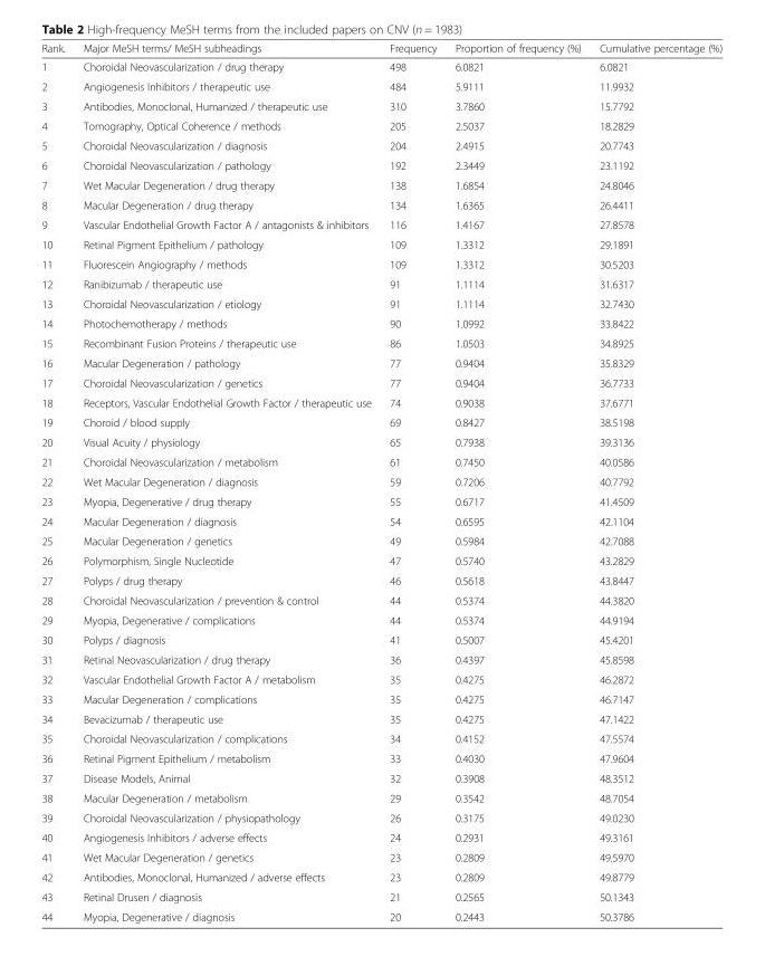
<table><thead><tr><td>Rank.</td><td>Major MeSH terms/ MeSH subheadings</td><td>Frequency</td><td>Proportion of frequency (%)</td><td>Cumulative percentage (%)</td></tr></thead><tbody><tr><td>1</td><td>Choroidal Neovascularization / drug therapy</td><td>498</td><td>6.0821</td><td>6.0821</td></tr><tr><td>2</td><td>Angiogenesis Inhibitors / therapeutic use</td><td>484</td><td>5.9111</td><td>11.9932</td></tr><tr><td>3</td><td>Antibodies, Monoclonal, Humanized / therapeutic use</td><td>310</td><td>3.7860</td><td>15.7792</td></tr><tr><td>4</td><td>Tomography, Optical Coherence / methods</td><td>205</td><td>2.5037</td><td>18.2829</td></tr><tr><td>5</td><td>Choroidal Neovascularization / diagnosis</td><td>204</td><td>2.4915</td><td>20.7743</td></tr><tr><td>6</td><td>Choroidal Neovascularization / pathology</td><td>192</td><td>2.3449</td><td>23.1192</td></tr><tr><td>7</td><td>Wet Macular Degeneration / drug therapy</td><td>138</td><td>1.6854</td><td>24.8046</td></tr><tr><td>8</td><td>Macular Degeneration / drug therapy</td><td>134</td><td>1.6365</td><td>26.4411</td></tr><tr><td>9</td><td>Vascular Endothelial Growth Factor A / antagonists &amp; inhibitors</td><td>116</td><td>1.4167</td><td>27.8578</td></tr><tr><td>10</td><td>Retinal Pigment Epithelium / pathology</td><td>109</td><td>1.3312</td><td>29.1891</td></tr><tr><td>11</td><td>Fluorescein Angiography / methods</td><td>109</td><td>1.3312</td><td>30.5203</td></tr><tr><td>12</td><td>Ranibizumab / therapeutic use</td><td>91</td><td>1.1114</td><td>31.6317</td></tr><tr><td>13</td><td>Choroidal Neovascularization / etiology</td><td>91</td><td>1.1114</td><td>32.7430</td></tr><tr><td>14</td><td>Photochemotherapy / methods</td><td>90</td><td>1.0992</td><td>33.8422</td></tr><tr><td>15</td><td>Recombinant Fusion Proteins / therapeutic use</td><td>86</td><td>1.0503</td><td>34.8925</td></tr><tr><td>16</td><td>Macular Degeneration / pathology</td><td>77</td><td>0.9404</td><td>35.8329</td></tr><tr><td>17</td><td>Choroidal Neovascularization / genetics</td><td>77</td><td>0.9404</td><td>36.7733</td></tr><tr><td>18</td><td>Receptors, Vascular Endothelial Growth Factor / therapeutic use</td><td>74</td><td>0.9038</td><td>37.6771</td></tr><tr><td>19</td><td>Choroid / blood supply</td><td>69</td><td>0.8427</td><td>38.5198</td></tr><tr><td>20</td><td>Visual Acuity / physiology</td><td>65</td><td>0.7938</td><td>39.3136</td></tr><tr><td>21</td><td>Choroidal Neovascularization / metabolism</td><td>61</td><td>0.7450</td><td>40.0586</td></tr><tr><td>22</td><td>Wet Macular Degeneration / diagnosis</td><td>59</td><td>0.7206</td><td>40.7792</td></tr><tr><td>23</td><td>Myopia, Degenerative / drug therapy</td><td>55</td><td>0.6717</td><td>41.4509</td></tr><tr><td>24</td><td>Macular Degeneration / diagnosis</td><td>54</td><td>0.6595</td><td>42.1104</td></tr><tr><td>25</td><td>Macular Degeneration / genetics</td><td>49</td><td>0.5984</td><td>42.7088</td></tr><tr><td>26</td><td>Polymorphism, Single Nucleotide</td><td>47</td><td>0.5740</td><td>43.2829</td></tr><tr><td>27</td><td>Polyps / drug therapy</td><td>46</td><td>0.5618</td><td>43.8447</td></tr><tr><td>28</td><td>Choroidal Neovascularization / prevention &amp; control</td><td>44</td><td>0.5374</td><td>44.3820</td></tr><tr><td>29</td><td>Myopia, Degenerative / complications</td><td>44</td><td>0.5374</td><td>44.9194</td></tr><tr><td>30</td><td>Polyps / diagnosis</td><td>41</td><td>0.5007</td><td>45.4201</td></tr><tr><td>31</td><td>Retinal Neovascularization / drug therapy</td><td>36</td><td>0.4397</td><td>45.8598</td></tr><tr><td>32</td><td>Vascular Endothelial Growth Factor A / metabolism</td><td>35</td><td>0.4275</td><td>46.2872</td></tr><tr><td>33</td><td>Macular Degeneration / complications</td><td>35</td><td>0.4275</td><td>46.7147</td></tr><tr><td>34</td><td>Bevacizumab / therapeutic use</td><td>35</td><td>0.4275</td><td>47.1422</td></tr><tr><td>35</td><td>Choroidal Neovascularization / complications</td><td>34</td><td>0.4152</td><td>47.5574</td></tr><tr><td>36</td><td>Retinal Pigment Epithelium / metabolism</td><td>33</td><td>0.4030</td><td>47.9604</td></tr><tr><td>37</td><td>Disease Models, Animal</td><td>32</td><td>0.3908</td><td>48.3512</td></tr><tr><td>38</td><td>Macular Degeneration / metabolism</td><td>29</td><td>0.3542</td><td>48.7054</td></tr><tr><td>39</td><td>Choroidal Neovascularization / physiopathology</td><td>26</td><td>0.3175</td><td>49.0230</td></tr><tr><td>40</td><td>Angiogenesis Inhibitors / adverse effects</td><td>24</td><td>0.2931</td><td>49.3161</td></tr><tr><td>41</td><td>Wet Macular Degeneration / genetics</td><td>23</td><td>0.2809</td><td>49.5970</td></tr><tr><td>42</td><td>Antibodies, Monoclonal, Humanized / adverse effects</td><td>23</td><td>0.2809</td><td>49.8779</td></tr><tr><td>43</td><td>Retinal Drusen / diagnosis</td><td>21</td><td>0.2565</td><td>50.1343</td></tr><tr><td>44</td><td>Myopia, Degenerative / diagnosis</td><td>20</td><td>0.2443</td><td>50.3786</td></tr></tbody></table>